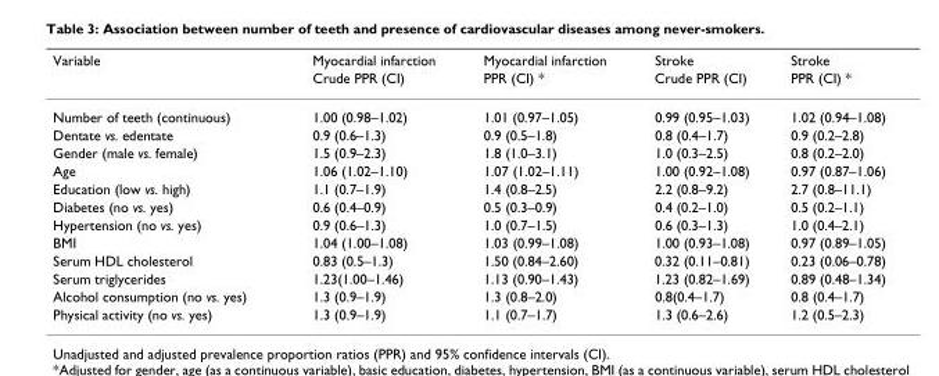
<table><thead><tr><td rowspan="2">Variable</td><td rowspan="2">Myocardial infarction Crude PPR (CI)</td><td rowspan="2">Myocardial infarction PPR (CI) *</td><td rowspan="2">Stroke Crude PPR (CI)</td><td rowspan="2">Stroke PPR (CI) *</td></tr><tr></tr></thead><tbody><tr><td>Number of teeth (continuous)</td><td>1.00 (0.98–1.02)</td><td>1.01 (0.97–1.05)</td><td>0.99 (0.95–1.03)</td><td>1.02 (0.94–1.08)</td></tr><tr><td>Dentate vs. edentate</td><td>0.9 (0.6–1.3)</td><td>0.9 (0.5–1.8)</td><td>0.8 (0.4–1.7)</td><td>0.9 (0.2–2.8)</td></tr><tr><td>Gender (male vs. female)</td><td>1.5 (0.9–2.3)</td><td>1.8 (1.0–3.1)</td><td>1.0 (0.3–2.5)</td><td>0.8 (0.2–2.0)</td></tr><tr><td>Age</td><td>1.06 (1.02–1.10)</td><td>1.07 (1.02–1.11)</td><td>1.00 (0.92–1.08)</td><td>0.97 (0.87–1.06)</td></tr><tr><td>Education (low vs. high)</td><td>1.1 (0.7–1.9)</td><td>1.4 (0.8–2.5)</td><td>2.2 (0.8–9.2)</td><td>2.7 (0.8–11.1)</td></tr><tr><td>Diabetes (no vs. yes)</td><td>0.6 (0.4–0.9)</td><td>0.5 (0.3–0.9)</td><td>0.4 (0.2–1.0)</td><td>0.5 (0.2–1.1)</td></tr><tr><td>Hypertension (no vs. yes)</td><td>0.9 (0.6–1.3)</td><td>1.0 (0.7–1.5)</td><td>0.6 (0.3–1.3)</td><td>1.0 (0.4–2.1)</td></tr><tr><td>BMI</td><td>1.04 (1.00–1.08)</td><td>1.03 (0.99–1.08)</td><td>1.00 (0.93–1.08)</td><td>0.97 (0.89–1.05)</td></tr><tr><td>Serum HDL cholesterol</td><td>0.83 (0.5–1.3)</td><td>1.50 (0.84–2.60)</td><td>0.32 (0.11–0.81)</td><td>0.23 (0.06–0.78)</td></tr><tr><td>Serum triglycerides</td><td>1.23(1.00–1.46)</td><td>1.13 (0.90–1.43)</td><td>1.23 (0.82–1.69)</td><td>0.89 (0.48–1.34)</td></tr><tr><td>Alcohol consumption (no vs. yes)</td><td>1.3 (0.9–1.9)</td><td>1.3 (0.8–2.0)</td><td>0.8(0.4–1.7)</td><td>0.8 (0.4–1.7)</td></tr><tr><td>Physical activity (no vs. yes)</td><td>1.3 (0.9–1.9)</td><td>1.1 (0.7–1.7)</td><td>1.3 (0.6–2.6)</td><td>1.2 (0.5–2.3)</td></tr></tbody></table>